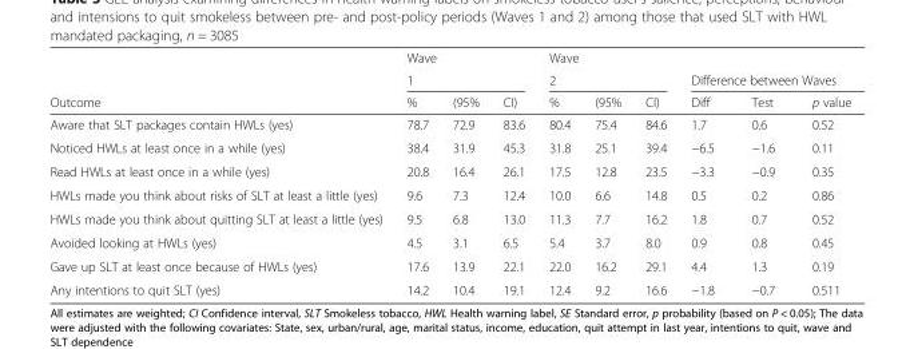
<table><thead><tr><td rowspan="3">Outcome</td><td rowspan="2" colspan="3">Wave 1</td><td rowspan="2" colspan="3">Wave 2</td><td></td><td></td><td></td></tr><tr><td colspan="3">Difference between Waves</td></tr><tr><td>%</td><td>(95%</td><td>CI)</td><td>%</td><td>(95%</td><td>CI)</td><td>Diff</td><td>Test</td><td>p value</td></tr></thead><tbody><tr><td>Aware that SLT packages contain HWLs (yes)</td><td>78.7</td><td>72.9</td><td>83.6</td><td>80.4</td><td>75.4</td><td>84.6</td><td>1.7</td><td>0.6</td><td>0.52</td></tr><tr><td>Noticed HWLs at least once in a while (yes)</td><td>38.4</td><td>31.9</td><td>45.3</td><td>31.8</td><td>25.1</td><td>39.4</td><td>−6.5</td><td>−1.6</td><td>0.11</td></tr><tr><td>Read HWLs at least once in a while (yes)</td><td>20.8</td><td>16.4</td><td>26.1</td><td>17.5</td><td>12.8</td><td>23.5</td><td>−3.3</td><td>−0.9</td><td>0.35</td></tr><tr><td>HWLs made you think about risks of SLT at least a little (yes)</td><td>9.6</td><td>7.3</td><td>12.4</td><td>10.0</td><td>6.6</td><td>14.8</td><td>0.5</td><td>0.2</td><td>0.86</td></tr><tr><td>HWLs made you think about quitting SLT at least a little (yes)</td><td>9.5</td><td>6.8</td><td>13.0</td><td>11.3</td><td>7.7</td><td>16.2</td><td>1.8</td><td>0.7</td><td>0.52</td></tr><tr><td>Avoided looking at HWLs (yes)</td><td>4.5</td><td>3.1</td><td>6.5</td><td>5.4</td><td>3.7</td><td>8.0</td><td>0.9</td><td>0.8</td><td>0.45</td></tr><tr><td>Gave up SLT at least once because of HWLs (yes)</td><td>17.6</td><td>13.9</td><td>22.1</td><td>22.0</td><td>16.2</td><td>29.1</td><td>4.4</td><td>1.3</td><td>0.19</td></tr><tr><td>Any intentions to quit SLT (yes)</td><td>14.2</td><td>10.4</td><td>19.1</td><td>12.4</td><td>9.2</td><td>16.6</td><td>−1.8</td><td>−0.7</td><td>0.511</td></tr></tbody></table>